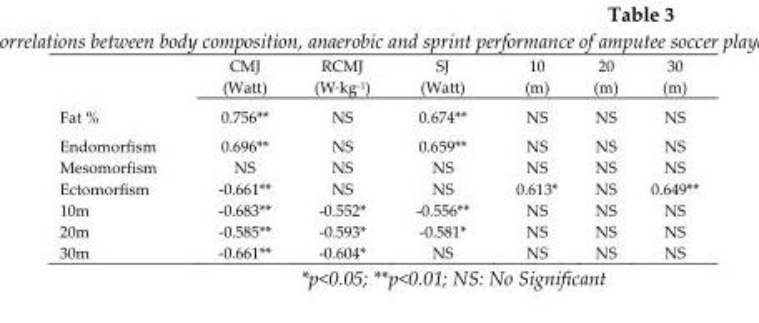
<table><thead><tr><td></td><td>CMJ (Watt)</td><td>RCMJ (W·kg<sup>-1</sup>)</td><td>SJ (Watt)</td><td>10 (m)</td><td>20 (m)</td><td>30 (m)</td></tr></thead><tbody><tr><td>Fat %</td><td>0.756**</td><td>NS</td><td>0.674**</td><td>NS</td><td>NS</td><td>NS</td></tr><tr><td>Endomorfism</td><td>0.696**</td><td>NS</td><td>0.659**</td><td>NS</td><td>NS</td><td>NS</td></tr><tr><td>Mesomorfism</td><td>NS</td><td>NS</td><td>NS</td><td>NS</td><td>NS</td><td>NS</td></tr><tr><td>Ectomorfism</td><td><sup>-</sup>0.661**</td><td>NS</td><td>NS</td><td>0.613*</td><td>NS</td><td>0.649**</td></tr><tr><td>10m</td><td><sup>-</sup>0.683**</td><td><sup>-</sup>0.552*</td><td><sup>-</sup>0.556**</td><td>NS</td><td>NS</td><td>NS</td></tr><tr><td>20m</td><td><sup>-</sup>0.585**</td><td><sup>-</sup>0.593*</td><td><sup>-</sup>0.581*</td><td>NS</td><td>NS</td><td>NS</td></tr><tr><td>30m</td><td><sup>-</sup>0.661**</td><td><sup>-</sup>0.604*</td><td>NS</td><td>NS</td><td>NS</td><td>NS</td></tr></tbody></table>